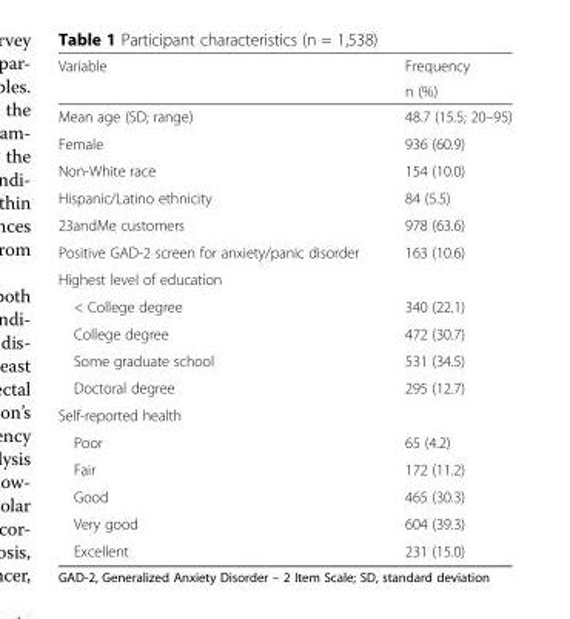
<table><thead><tr><td rowspan="2">Variable</td><td rowspan="2">Frequency n (%)</td></tr><tr></tr></thead><tbody><tr><td>Mean age (SD; range)</td><td>48.7 (15.5; 20–95)</td></tr><tr><td>Female</td><td>936 (60.9)</td></tr><tr><td>Non-White race</td><td>154 (10.0)</td></tr><tr><td>Hispanic/Latino ethnicity</td><td>84 (5.5)</td></tr><tr><td>23andMe customers</td><td>978 (63.6)</td></tr><tr><td>Positive GAD-2 screen for anxiety/panic disorder</td><td>163 (10.6)</td></tr><tr><td colspan="2">Highest level of education</td></tr><tr><td>&lt; College degree</td><td>340 (22.1)</td></tr><tr><td>College degree</td><td>472 (30.7)</td></tr><tr><td>Some graduate school</td><td>531 (34.5)</td></tr><tr><td>Doctoral degree</td><td>295 (12.7)</td></tr><tr><td colspan="2">Self-reported health</td></tr><tr><td>Poor</td><td>65 (4.2)</td></tr><tr><td>Fair</td><td>172 (11.2)</td></tr><tr><td>Good</td><td>465 (30.3)</td></tr><tr><td>Very good</td><td>604 (39.3)</td></tr><tr><td>Excellent</td><td>231 (15.0)</td></tr></tbody></table>